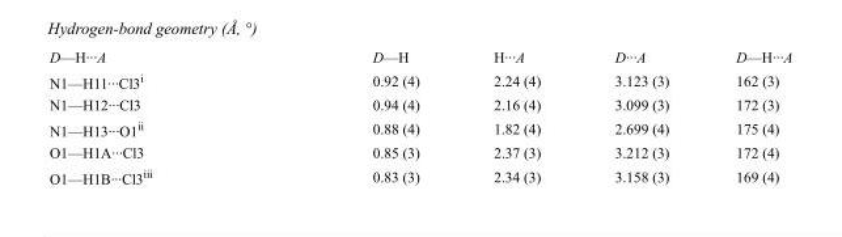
<table><tbody><tr><td>D—H···A</td><td>D—H</td><td>H···A</td><td>D···A</td><td>D—H···A</td></tr><tr><td>N1—H11···Cl3<sup>i</sup></td><td>0.92 (4)</td><td>2.24 (4)</td><td>3.123 (3)</td><td>162 (3)</td></tr><tr><td>N1—H12···Cl3</td><td>0.94 (4)</td><td>2.16 (4)</td><td>3.099 (3)</td><td>172 (3)</td></tr><tr><td>N1—H13···O1<sup>ii</sup></td><td>0.88 (4)</td><td>1.82 (4)</td><td>2.699 (4)</td><td>175 (4)</td></tr><tr><td>O1—H1A···Cl3</td><td>0.85 (3)</td><td>2.37 (3)</td><td>3.212 (3)</td><td>172 (4)</td></tr><tr><td>O1—H1B···Cl3<sup>iii</sup></td><td>0.83 (3)</td><td>2.34 (3)</td><td>3.158 (3)</td><td>169 (4)</td></tr></tbody></table>